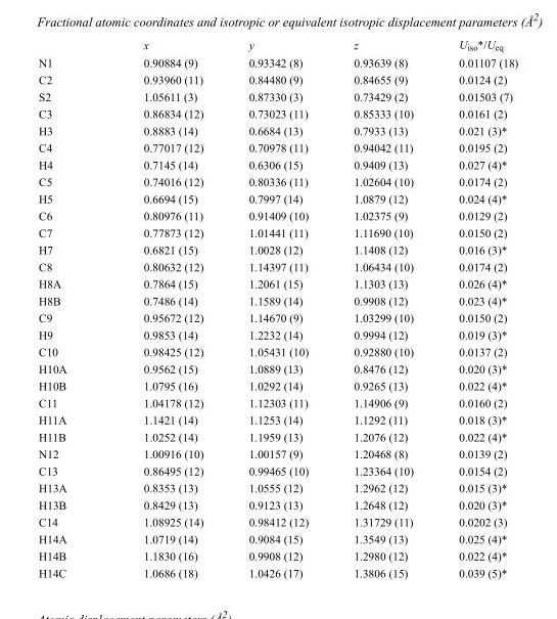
<table><thead><tr><td></td><td>x</td><td>y</td><td>z</td><td>U<sub>iso</sub>*/U<sub>eq</sub></td></tr></thead><tbody><tr><td>N1</td><td>0.90884 (9)</td><td>0.93342 (8)</td><td>0.93639 (8)</td><td>0.01107 (18)</td></tr><tr><td>C2</td><td>0.93960 (11)</td><td>0.84480 (9)</td><td>0.84655 (9)</td><td>0.0124 (2)</td></tr><tr><td>S2</td><td>1.05611 (3)</td><td>0.87330 (3)</td><td>0.73429 (2)</td><td>0.01503 (7)</td></tr><tr><td>C3</td><td>0.86834 (12)</td><td>0.73023 (11)</td><td>0.85333 (10)</td><td>0.0161 (2)</td></tr><tr><td>H3</td><td>0.8883 (14)</td><td>0.6684 (13)</td><td>0.7933 (13)</td><td>0.021 (3)*</td></tr><tr><td>C4</td><td>0.77017 (12)</td><td>0.70978 (11)</td><td>0.94042 (11)</td><td>0.0195 (2)</td></tr><tr><td>H4</td><td>0.7145 (14)</td><td>0.6306 (15)</td><td>0.9409 (13)</td><td>0.027 (4)*</td></tr><tr><td>C5</td><td>0.74016 (12)</td><td>0.80336 (11)</td><td>1.02604 (10)</td><td>0.0174 (2)</td></tr><tr><td>H5</td><td>0.6694 (15)</td><td>0.7997 (14)</td><td>1.0879 (12)</td><td>0.024 (4)*</td></tr><tr><td>C6</td><td>0.80976 (11)</td><td>0.91409 (10)</td><td>1.02375 (9)</td><td>0.0129 (2)</td></tr><tr><td>C7</td><td>0.77873 (12)</td><td>1.01441 (11)</td><td>1.11690 (10)</td><td>0.0150 (2)</td></tr><tr><td>H7</td><td>0.6821 (15)</td><td>1.0028 (12)</td><td>1.1408 (12)</td><td>0.016 (3)*</td></tr><tr><td>C8</td><td>0.80632 (12)</td><td>1.14397 (11)</td><td>1.06434 (10)</td><td>0.0174 (2)</td></tr><tr><td>H8A</td><td>0.7864 (15)</td><td>1.2061 (15)</td><td>1.1303 (13)</td><td>0.026 (4)*</td></tr><tr><td>H8B</td><td>0.7486 (14)</td><td>1.1589 (14)</td><td>0.9908 (12)</td><td>0.023 (4)*</td></tr><tr><td>C9</td><td>0.95672 (12)</td><td>1.14670 (9)</td><td>1.03299 (10)</td><td>0.0150 (2)</td></tr><tr><td>H9</td><td>0.9853 (14)</td><td>1.2232 (14)</td><td>0.9994 (12)</td><td>0.019 (3)*</td></tr><tr><td>C10</td><td>0.98425 (12)</td><td>1.05431 (10)</td><td>0.92880 (10)</td><td>0.0137 (2)</td></tr><tr><td>H10A</td><td>0.9562 (15)</td><td>1.0889 (13)</td><td>0.8476 (12)</td><td>0.020 (3)*</td></tr><tr><td>H10B</td><td>1.0795 (16)</td><td>1.0292 (14)</td><td>0.9265 (13)</td><td>0.022 (4)*</td></tr><tr><td>C11</td><td>1.04178 (12)</td><td>1.12303 (11)</td><td>1.14906 (9)</td><td>0.0160 (2)</td></tr><tr><td>H11A</td><td>1.1421 (14)</td><td>1.1253 (14)</td><td>1.1292 (11)</td><td>0.018 (3)*</td></tr><tr><td>H11B</td><td>1.0252 (14)</td><td>1.1959 (13)</td><td>1.2076 (12)</td><td>0.022 (4)*</td></tr><tr><td>N12</td><td>1.00916 (10)</td><td>1.00157 (9)</td><td>1.20468 (8)</td><td>0.0139 (2)</td></tr><tr><td>C13</td><td>0.86495 (12)</td><td>0.99465 (10)</td><td>1.23364 (10)</td><td>0.0154 (2)</td></tr><tr><td>H13A</td><td>0.8353 (13)</td><td>1.0555 (12)</td><td>1.2962 (12)</td><td>0.015 (3)*</td></tr><tr><td>H13B</td><td>0.8429 (13)</td><td>0.9123 (13)</td><td>1.2648 (12)</td><td>0.020 (3)*</td></tr><tr><td>C14</td><td>1.08925 (14)</td><td>0.98412 (12)</td><td>1.31729 (11)</td><td>0.0202 (3)</td></tr><tr><td>H14A</td><td>1.0719 (14)</td><td>0.9084 (15)</td><td>1.3549 (13)</td><td>0.025 (4)*</td></tr><tr><td>H14B</td><td>1.1830 (16)</td><td>0.9908 (12)</td><td>1.2980 (12)</td><td>0.022 (4)*</td></tr><tr><td>H14C</td><td>1.0686 (18)</td><td>1.0426 (17)</td><td>1.3806 (15)</td><td>0.039 (5)*</td></tr></tbody></table>